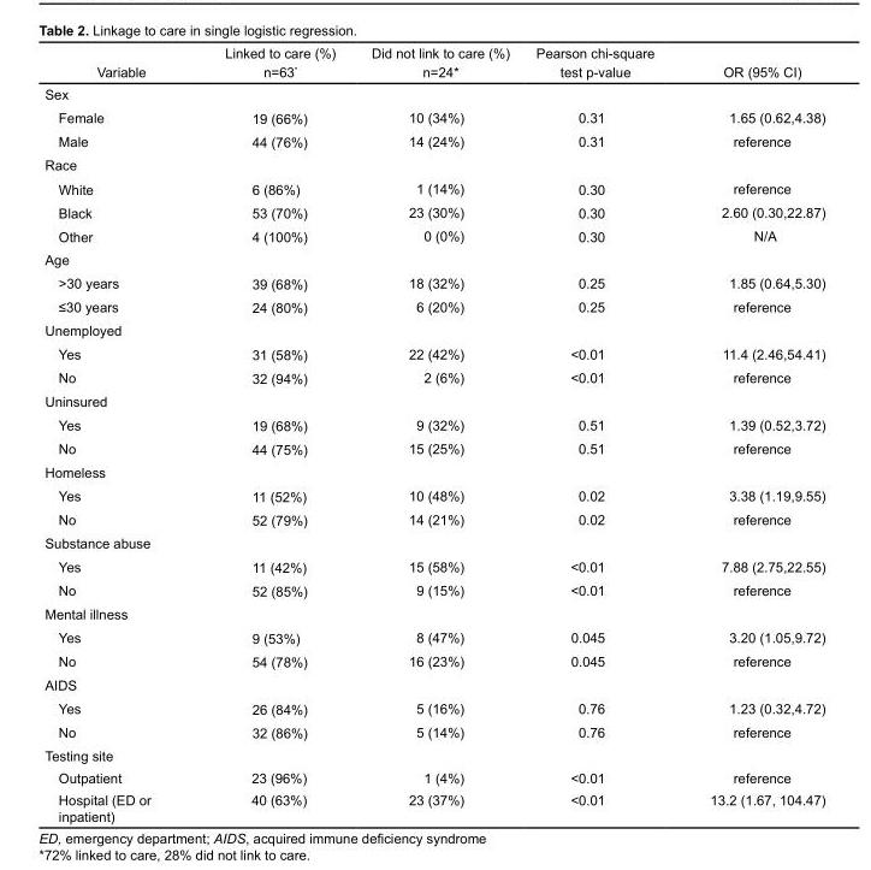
<table><thead><tr><td>Variable</td><td>Linked to care (%) n=63*</td><td>Did not link to care (%) n=24*</td><td>Pearson chi-square test p-value</td><td>OR (95% CI)</td></tr></thead><tbody><tr><td colspan="5">Sex</td></tr><tr><td>Female</td><td>19 (66%)</td><td>10 (34%)</td><td>0.31</td><td>1.65 (0.62,4.38)</td></tr><tr><td>Male</td><td>44 (76%)</td><td>14 (24%)</td><td>0.31</td><td>reference</td></tr><tr><td colspan="5">Race</td></tr><tr><td>White</td><td>6 (86%)</td><td>1 (14%)</td><td>0.30</td><td>reference</td></tr><tr><td>Black</td><td>53 (70%)</td><td>23 (30%)</td><td>0.30</td><td>2.60 (0.30,22.87)</td></tr><tr><td>Other</td><td>4 (100%)</td><td>0 (0%)</td><td>0.30</td><td>N/A</td></tr><tr><td colspan="5">Age</td></tr><tr><td>&gt;30 years</td><td>39 (68%)</td><td>18 (32%)</td><td>0.25</td><td>1.85 (0.64,5.30)</td></tr><tr><td>≤30 years</td><td>24 (80%)</td><td>6 (20%)</td><td>0.25</td><td>reference</td></tr><tr><td colspan="5">Unemployed</td></tr><tr><td>Yes</td><td>31 (58%)</td><td>22 (42%)</td><td>&lt;0.01</td><td>11.4 (2.46,54.41)</td></tr><tr><td>No</td><td>32 (94%)</td><td>2 (6%)</td><td>&lt;0.01</td><td>reference</td></tr><tr><td colspan="5">Uninsured</td></tr><tr><td>Yes</td><td>19 (68%)</td><td>9 (32%)</td><td>0.51</td><td>1.39 (0.52,3.72)</td></tr><tr><td>No</td><td>44 (75%)</td><td>15 (25%)</td><td>0.51</td><td>reference</td></tr><tr><td colspan="5">Homeless</td></tr><tr><td>Yes</td><td>11 (52%)</td><td>10 (48%)</td><td>0.02</td><td>3.38 (1.19,9.55)</td></tr><tr><td>No</td><td>52 (79%)</td><td>14 (21%)</td><td>0.02</td><td>reference</td></tr><tr><td colspan="5">Substance abuse</td></tr><tr><td>Yes</td><td>11 (42%)</td><td>15 (58%)</td><td>&lt;0.01</td><td>7.88 (2.75,22.55)</td></tr><tr><td>No</td><td>52 (85%)</td><td>9 (15%)</td><td>&lt;0.01</td><td>reference</td></tr><tr><td colspan="5">Mental illness</td></tr><tr><td>Yes</td><td>9 (53%)</td><td>8 (47%)</td><td>0.045</td><td>3.20 (1.05,9.72)</td></tr><tr><td>No</td><td>54 (78%)</td><td>16 (23%)</td><td>0.045</td><td>reference</td></tr><tr><td colspan="5">AIDS</td></tr><tr><td>Yes</td><td>26 (84%)</td><td>5 (16%)</td><td>0.76</td><td>1.23 (0.32,4.72)</td></tr><tr><td>No</td><td>32 (86%)</td><td>5 (14%)</td><td>0.76</td><td>reference</td></tr><tr><td colspan="5">Testing site</td></tr><tr><td>Outpatient</td><td>23 (96%)</td><td>1 (4%)</td><td>&lt;0.01</td><td>reference</td></tr><tr><td>Hospital (ED or inpatient)</td><td>40 (63%)</td><td>23 (37%)</td><td>&lt;0.01</td><td>13.2 (1.67, 104.47)</td></tr></tbody></table>